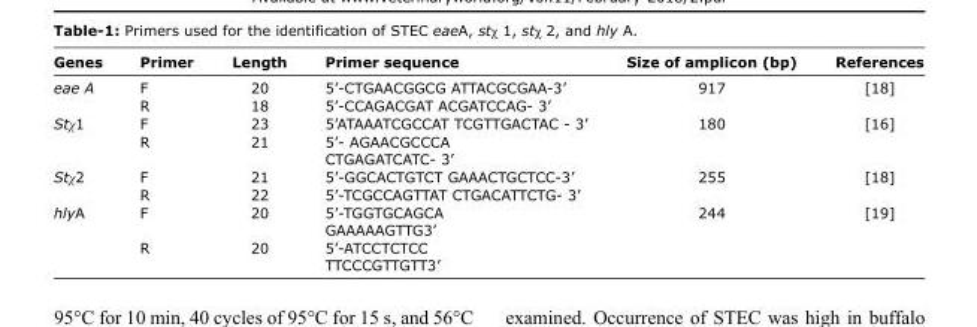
<table><thead><tr><td>Genes</td><td>Primer</td><td>Length</td><td>Primer sequence</td><td>Size of amplicon (bp)</td><td>References</td></tr></thead><tbody><tr><td rowspan="2">eae A</td><td>F</td><td>20</td><td>5’-CTGAACGGCG ATTACGCGAA-3’</td><td>917</td><td>[18]</td></tr><tr><td>R</td><td>18</td><td>5’-CCAGACGAT ACGATCCAG- 3’</td><td></td><td></td></tr><tr><td rowspan="2">Stχ1</td><td>F</td><td>23</td><td>5’ATAAATCGCCAT TCGTTGACTAC - 3’</td><td>180</td><td>[16]</td></tr><tr><td>R</td><td>21</td><td>5’- AGAACGCCCA CTGAGATCATC- 3’</td><td></td><td></td></tr><tr><td rowspan="2">Stχ2</td><td>F</td><td>21</td><td>5’-GGCACTGTCT GAAACTGCTCC-3’</td><td>255</td><td>[18]</td></tr><tr><td>R</td><td>22</td><td>5’-TCGCCAGTTAT CTGACATTCTG- 3’</td><td></td><td></td></tr><tr><td rowspan="2">hlyA</td><td>F</td><td>20</td><td>5’-TGGTGCAGCA GAAAAAGTTG3’</td><td>244</td><td>[19]</td></tr><tr><td>R</td><td>20</td><td>5’-ATCCTCTCC TTCCCGTTGTT3’</td><td></td><td></td></tr></tbody></table>